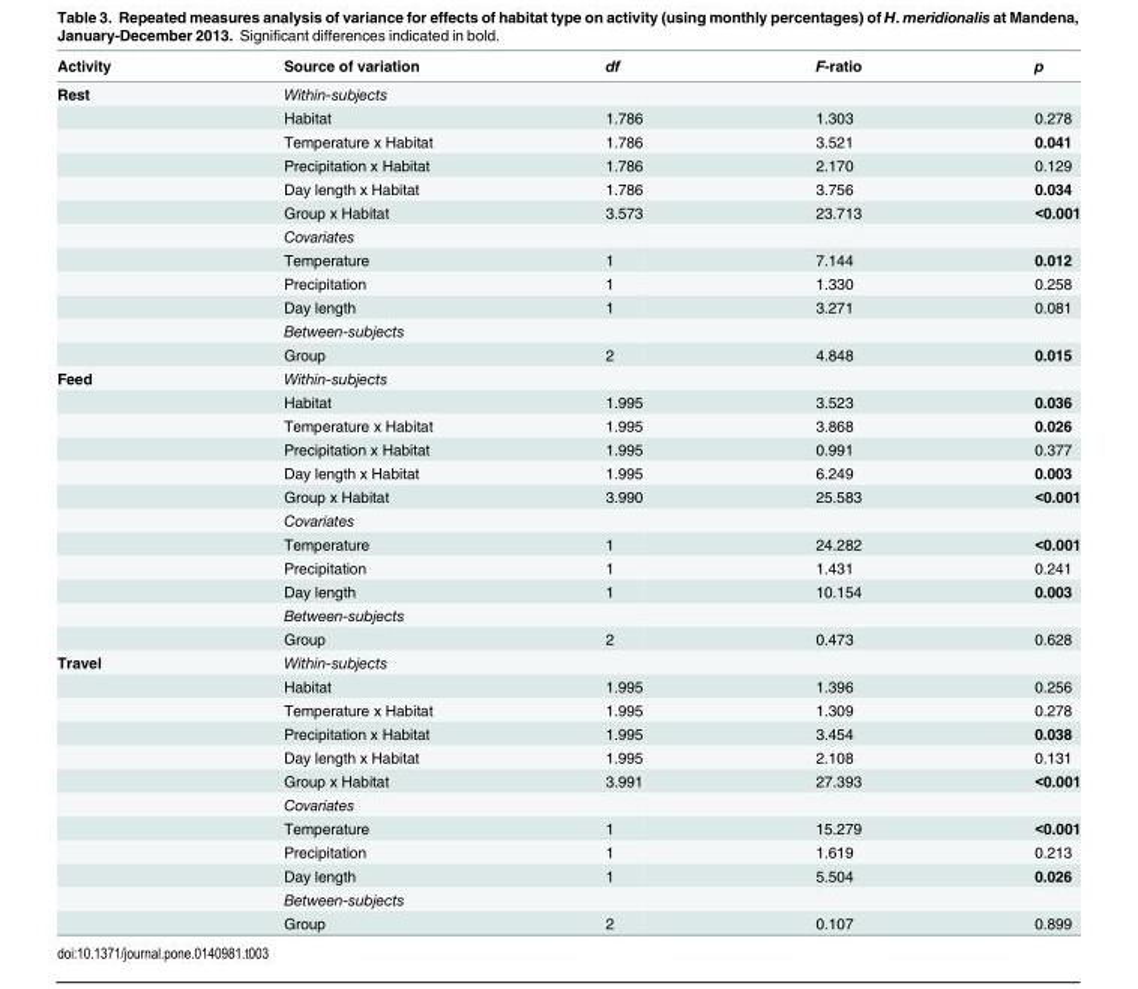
<table><thead><tr><td>Activity</td><td>Source of variation</td><td>df</td><td>F-ratio</td><td>p</td></tr></thead><tbody><tr><td rowspan="12">Rest</td><td>Within-subjects</td><td></td><td></td><td></td></tr><tr><td>Habitat</td><td>1.786</td><td>1.303</td><td>0.278</td></tr><tr><td>Temperature x Habitat</td><td>1.786</td><td>3.521</td><td>0.041</td></tr><tr><td>Precipitation x Habitat</td><td>1.786</td><td>2.170</td><td>0.129</td></tr><tr><td>Day length x Habitat</td><td>1.786</td><td>3.756</td><td>0.034</td></tr><tr><td>Group x Habitat</td><td>3.573</td><td>23.713</td><td>&lt;0.001</td></tr><tr><td>Covariates</td><td></td><td></td><td></td></tr><tr><td>Temperature</td><td>1</td><td>7.144</td><td>0.012</td></tr><tr><td>Precipitation</td><td>1</td><td>1.330</td><td>0.258</td></tr><tr><td>Day length</td><td>1</td><td>3.271</td><td>0.081</td></tr><tr><td>Between-subjects</td><td></td><td></td><td></td></tr><tr><td>Group</td><td>2</td><td>4.848</td><td>0.015</td></tr><tr><td rowspan="12">Feed</td><td>Within-subjects</td><td></td><td></td><td></td></tr><tr><td>Habitat</td><td>1.995</td><td>3.523</td><td>0.036</td></tr><tr><td>Temperature x Habitat</td><td>1.995</td><td>3.868</td><td>0.026</td></tr><tr><td>Precipitation x Habitat</td><td>1.995</td><td>0.991</td><td>0.377</td></tr><tr><td>Day length x Habitat</td><td>1.995</td><td>6.249</td><td>0.003</td></tr><tr><td>Group x Habitat</td><td>3.990</td><td>25.583</td><td>&lt;0.001</td></tr><tr><td>Covariates</td><td></td><td></td><td></td></tr><tr><td>Temperature</td><td>1</td><td>24.282</td><td>&lt;0.001</td></tr><tr><td>Precipitation</td><td>1</td><td>1.431</td><td>0.241</td></tr><tr><td>Day length</td><td>1</td><td>10.154</td><td>0.003</td></tr><tr><td>Between-subjects</td><td></td><td></td><td></td></tr><tr><td>Group</td><td>2</td><td>0.473</td><td>0.628</td></tr><tr><td rowspan="12">Travel</td><td>Within-subjects</td><td></td><td></td><td></td></tr><tr><td>Habitat</td><td>1.995</td><td>1.396</td><td>0.256</td></tr><tr><td>Temperature x Habitat</td><td>1.995</td><td>1.309</td><td>0.278</td></tr><tr><td>Precipitation x Habitat</td><td>1.995</td><td>3.454</td><td>0.038</td></tr><tr><td>Day length x Habitat</td><td>1.995</td><td>2.108</td><td>0.131</td></tr><tr><td>Group x Habitat</td><td>3.991</td><td>27.393</td><td>&lt;0.001</td></tr><tr><td>Covariates</td><td></td><td></td><td></td></tr><tr><td>Temperature</td><td>1</td><td>15.279</td><td>&lt;0.001</td></tr><tr><td>Precipitation</td><td>1</td><td>1.619</td><td>0.213</td></tr><tr><td>Day length</td><td>1</td><td>5.504</td><td>0.026</td></tr><tr><td>Between-subjects</td><td></td><td></td><td></td></tr><tr><td>Group</td><td>2</td><td>0.107</td><td>0.899</td></tr></tbody></table>